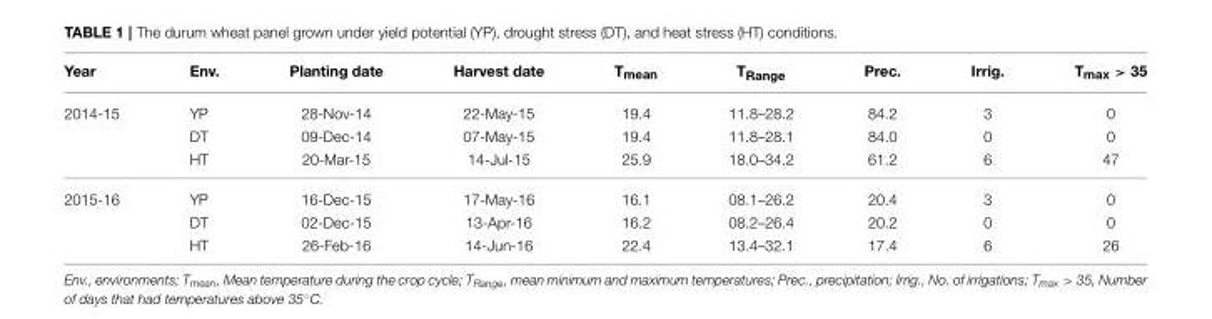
<table><thead><tr><td>Year</td><td>Env.</td><td>Planting date</td><td>Harvest date</td><td>T<sub>mean</sub></td><td>T<sub>Range</sub></td><td>Prec.</td><td>Irrig.</td><td>T<sub>max</sub> &gt; 35</td></tr></thead><tbody><tr><td rowspan="3">2014-15</td><td>YP</td><td>28-Nov-14</td><td>22-May-15</td><td>19.4</td><td>11.8–28.2</td><td>84.2</td><td>3</td><td>0</td></tr><tr><td>DT</td><td>09-Dec-14</td><td>07-May-15</td><td>19.4</td><td>11.8–28.1</td><td>84.0</td><td>0</td><td>0</td></tr><tr><td>HT</td><td>20-Mar-15</td><td>14-Jul-15</td><td>25.9</td><td>18.0–34.2</td><td>61.2</td><td>6</td><td>47</td></tr><tr><td rowspan="3">2015-16</td><td>YP</td><td>16-Dec-15</td><td>17-May-16</td><td>16.1</td><td>08.1–26.2</td><td>20.4</td><td>3</td><td>0</td></tr><tr><td>DT</td><td>02-Dec-15</td><td>13-Apr-16</td><td>16.2</td><td>08.2–26.4</td><td>20.2</td><td>0</td><td>0</td></tr><tr><td>HT</td><td>26-Feb-16</td><td>14-Jun-16</td><td>22.4</td><td>13.4–32.1</td><td>17.4</td><td>6</td><td>26</td></tr></tbody></table>